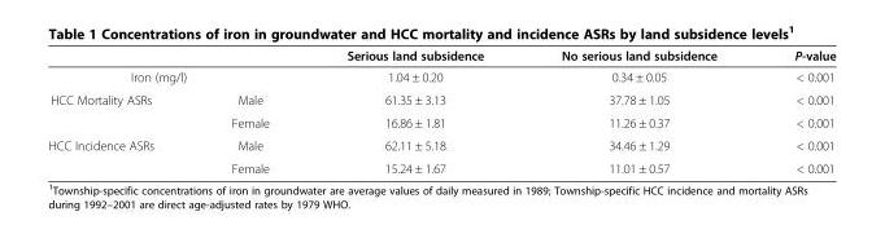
<table><thead><tr><td></td><td></td><td>Serious land subsidence</td><td>No serious land subsidence</td><td>P-value</td></tr></thead><tbody><tr><td colspan="2">Iron (mg/l)</td><td>1.04 ± 0.20</td><td>0.34 ± 0.05</td><td>&lt; 0.001</td></tr><tr><td rowspan="2">HCC Mortality ASRs</td><td>Male</td><td>61.35 ± 3.13</td><td>37.78 ± 1.05</td><td>&lt; 0.001</td></tr><tr><td>Female</td><td>16.86 ± 1.81</td><td>11.26 ± 0.37</td><td>&lt; 0.001</td></tr><tr><td rowspan="2">HCC Incidence ASRs</td><td>Male</td><td>62.11 ± 5.18</td><td>34.46 ± 1.29</td><td>&lt; 0.001</td></tr><tr><td>Female</td><td>15.24 ± 1.67</td><td>11.01 ± 0.57</td><td>&lt; 0.001</td></tr></tbody></table>